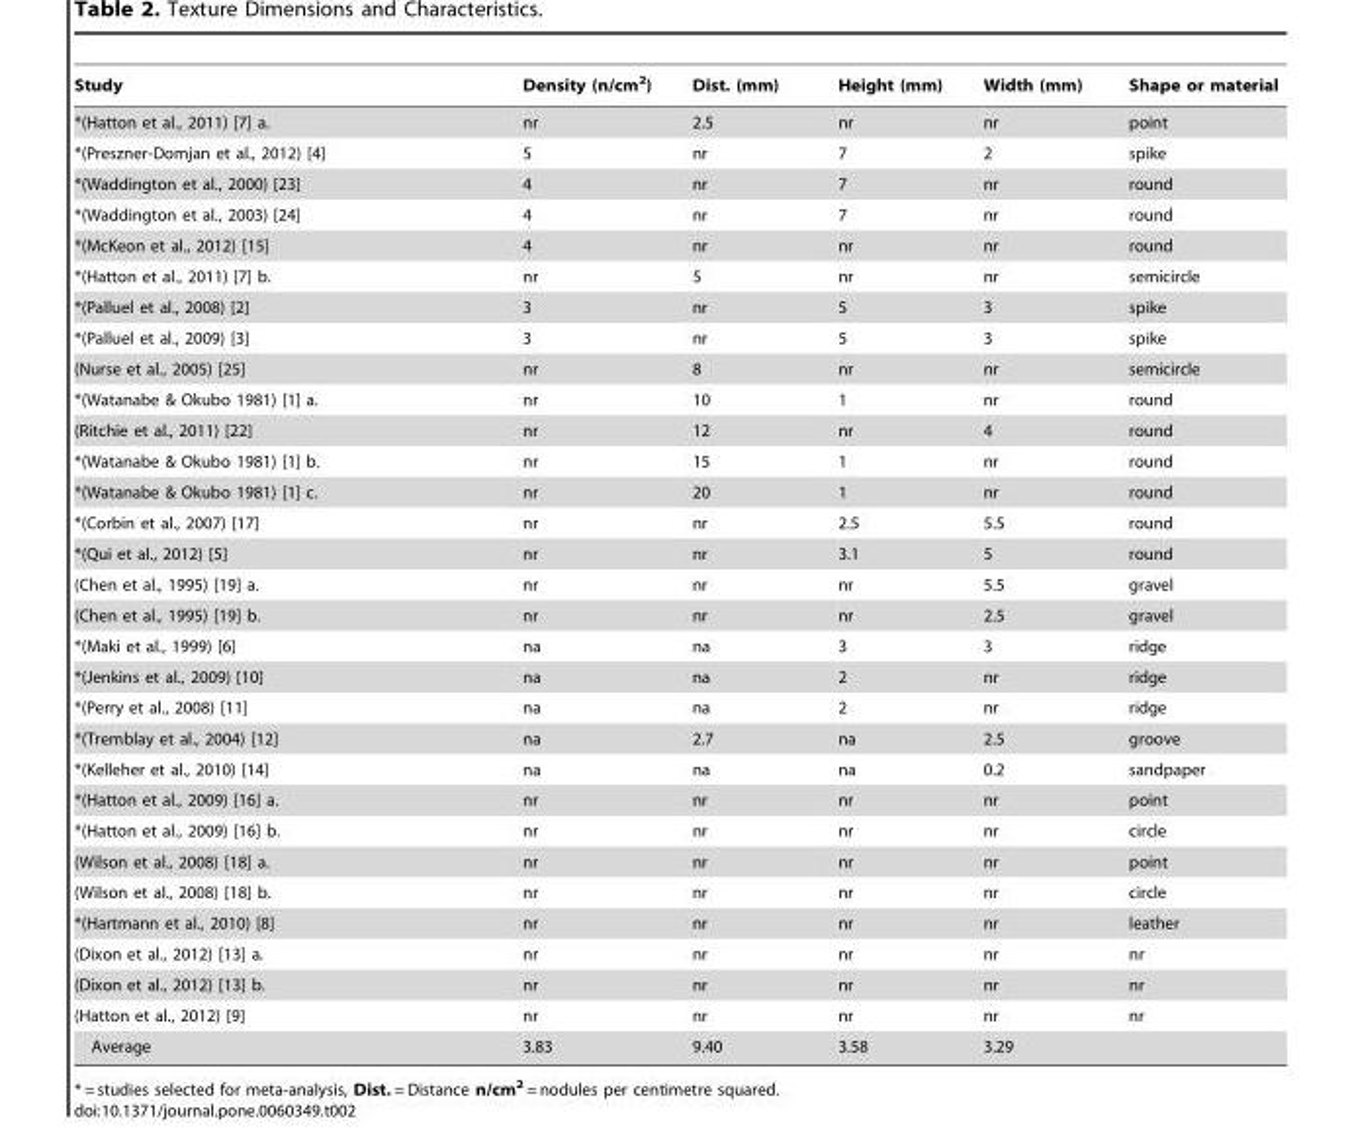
<table><thead><tr><td>Study</td><td>Density (n/cm<sup>2</sup>)</td><td>Dist. (mm)</td><td>Height (mm)</td><td>Width (mm)</td><td>Shape or material</td></tr></thead><tbody><tr><td>*(Hatton et al., 2011) [7] a.</td><td>nr</td><td>2.5</td><td>nr</td><td>nr</td><td>point</td></tr><tr><td>*(Preszner-Domjan et al., 2012) [4]</td><td>5</td><td>nr</td><td>7</td><td>2</td><td>spike</td></tr><tr><td>*(Waddington et al., 2000) [23]</td><td>4</td><td>nr</td><td>7</td><td>nr</td><td>round</td></tr><tr><td>*(Waddington et al., 2003) [24]</td><td>4</td><td>nr</td><td>7</td><td>nr</td><td>round</td></tr><tr><td>*(McKeon et al., 2012) [15]</td><td>4</td><td>nr</td><td>nr</td><td>nr</td><td>round</td></tr><tr><td>*(Hatton et al., 2011) [7] b.</td><td>nr</td><td>5</td><td>nr</td><td>nr</td><td>semicircle</td></tr><tr><td>*(Palluel et al., 2008) [2]</td><td>3</td><td>nr</td><td>5</td><td>3</td><td>spike</td></tr><tr><td>*(Palluel et al., 2009) [3]</td><td>3</td><td>nr</td><td>5</td><td>3</td><td>spike</td></tr><tr><td>(Nurse et al., 2005) [25]</td><td>nr</td><td>8</td><td>nr</td><td>nr</td><td>semicircle</td></tr><tr><td>*(Watanabe &amp; Okubo 1981) [1] a.</td><td>nr</td><td>10</td><td>1</td><td>nr</td><td>round</td></tr><tr><td>(Ritchie et al., 2011) [22]</td><td>nr</td><td>12</td><td>nr</td><td>4</td><td>round</td></tr><tr><td>*(Watanabe &amp; Okubo 1981) [1] b.</td><td>nr</td><td>15</td><td>1</td><td>nr</td><td>round</td></tr><tr><td>*(Watanabe &amp; Okubo 1981) [1] c.</td><td>nr</td><td>20</td><td>1</td><td>nr</td><td>round</td></tr><tr><td>*(Corbin et al., 2007) [17]</td><td>nr</td><td>nr</td><td>2.5</td><td>5.5</td><td>round</td></tr><tr><td>*(Qui et al., 2012) [5]</td><td>nr</td><td>nr</td><td>3.1</td><td>5</td><td>round</td></tr><tr><td>(Chen et al., 1995) [19] a.</td><td>nr</td><td>nr</td><td>nr</td><td>5.5</td><td>gravel</td></tr><tr><td>(Chen et al., 1995) [19] b.</td><td>nr</td><td>nr</td><td>nr</td><td>2.5</td><td>gravel</td></tr><tr><td>*(Maki et al., 1999) [6]</td><td>na</td><td>na</td><td>3</td><td>3</td><td>ridge</td></tr><tr><td>*(Jenkins et al., 2009) [10]</td><td>na</td><td>na</td><td>2</td><td>nr</td><td>ridge</td></tr><tr><td>*(Perry et al., 2008) [11]</td><td>na</td><td>na</td><td>2</td><td>nr</td><td>ridge</td></tr><tr><td>*(Tremblay et al., 2004) [12]</td><td>na</td><td>2.7</td><td>na</td><td>2.5</td><td>groove</td></tr><tr><td>*(Kelleher et al., 2010) [14]</td><td>na</td><td>na</td><td>na</td><td>0.2</td><td>sandpaper</td></tr><tr><td>*(Hatton et al., 2009) [16] a.</td><td>nr</td><td>nr</td><td>nr</td><td>nr</td><td>point</td></tr><tr><td>*(Hatton et al., 2009) [16] b.</td><td>nr</td><td>nr</td><td>nr</td><td>nr</td><td>circle</td></tr><tr><td>(Wilson et al., 2008) [18] a.</td><td>nr</td><td>nr</td><td>nr</td><td>nr</td><td>point</td></tr><tr><td>(Wilson et al., 2008) [18] b.</td><td>nr</td><td>nr</td><td>nr</td><td>nr</td><td>circle</td></tr><tr><td>*(Hartmann et al., 2010) [8]</td><td>nr</td><td>nr</td><td>nr</td><td>nr</td><td>leather</td></tr><tr><td>(Dixon et al., 2012) [13] a.</td><td>nr</td><td>nr</td><td>nr</td><td>nr</td><td>nr</td></tr><tr><td>(Dixon et al., 2012) [13] b.</td><td>nr</td><td>nr</td><td>nr</td><td>nr</td><td>nr</td></tr><tr><td>(Hatton et al., 2012) [9]</td><td>nr</td><td>nr</td><td>nr</td><td>nr</td><td>nr</td></tr><tr><td>Average</td><td>3.83</td><td>9.40</td><td>3.58</td><td>3.29</td><td></td></tr></tbody></table>